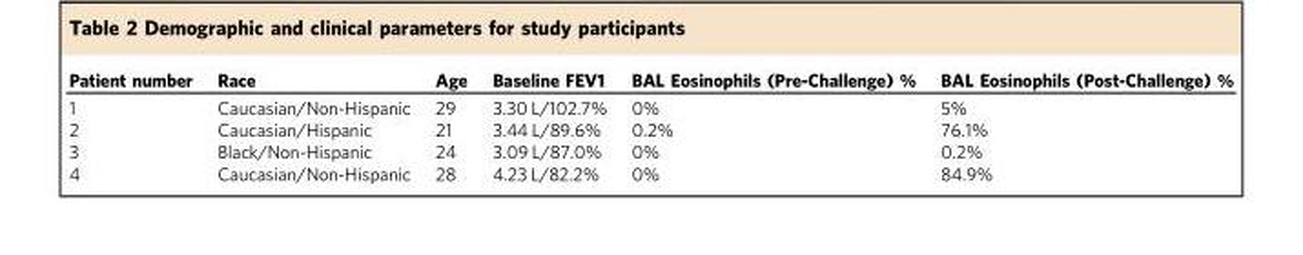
<table><thead><tr><td>Patient number</td><td>Race</td><td>Age</td><td>Baseline FEV1</td><td>BAL Eosinophils (Pre-Challenge) %</td><td>BAL Eosinophils (Post-Challenge) %</td></tr></thead><tbody><tr><td>1</td><td>Caucasian/Non-Hispanic</td><td>29</td><td>3.30 L/102.7%</td><td>0%</td><td>5%</td></tr><tr><td>2</td><td>Caucasian/Hispanic</td><td>21</td><td>3.44 L/89.6%</td><td>0.2%</td><td>76.1%</td></tr><tr><td>3</td><td>Black/Non-Hispanic</td><td>24</td><td>3.09 L/87.0%</td><td>0%</td><td>0.2%</td></tr><tr><td>4</td><td>Caucasian/Non-Hispanic</td><td>28</td><td>4.23 L/82.2%</td><td>0%</td><td>84.9%</td></tr></tbody></table>